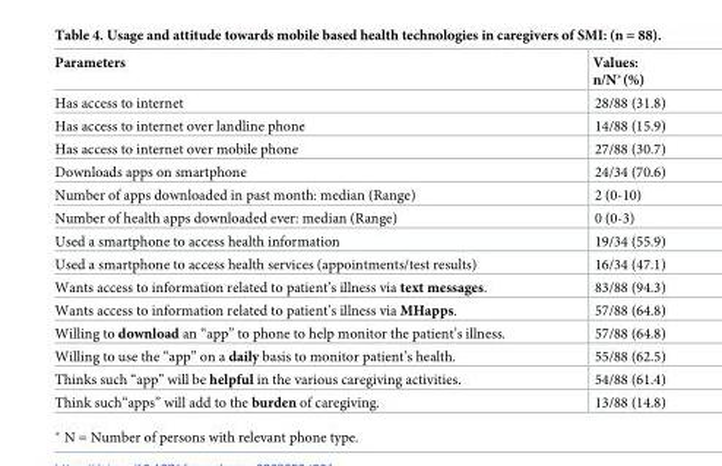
<table><thead><tr><td>Parameters</td><td>Values: n/N*(%)</td></tr></thead><tbody><tr><td>Has access to internet</td><td>28/88 (31.8)</td></tr><tr><td>Has access to internet over landline phone</td><td>14/88 (15.9)</td></tr><tr><td>Has access to internet over mobile phone</td><td>27/88 (30.7)</td></tr><tr><td>Downloads apps on smartphone</td><td>24/34 (70.6)</td></tr><tr><td>Number of apps downloaded in past month: median (Range)</td><td>2 (0-10)</td></tr><tr><td>Number of health apps downloaded ever: median (Range)</td><td>0 (0-3)</td></tr><tr><td>Used a smartphone to access health information</td><td>19/34 (55.9)</td></tr><tr><td>Used a smartphone to access health services (appointments/test results)</td><td>16/34 (47.1)</td></tr><tr><td>Wants access to information related to patient’s illness via text messages.</td><td>83/88 (94.3)</td></tr><tr><td>Wants access to information related to patient’s illness via MHapps.</td><td>57/88 (64.8)</td></tr><tr><td>Willing to download an “app” to phone to help monitor the patient’s illness.</td><td>57/88 (64.8)</td></tr><tr><td>Willing to use the “app” on a daily basis to monitor patient’s health.</td><td>55/88 (62.5)</td></tr><tr><td>Thinks such “app” will be helpful in the various caregiving activities.</td><td>54/88 (61.4)</td></tr><tr><td>Think such“apps” will add to the burden of caregiving.</td><td>13/88 (14.8)</td></tr></tbody></table>